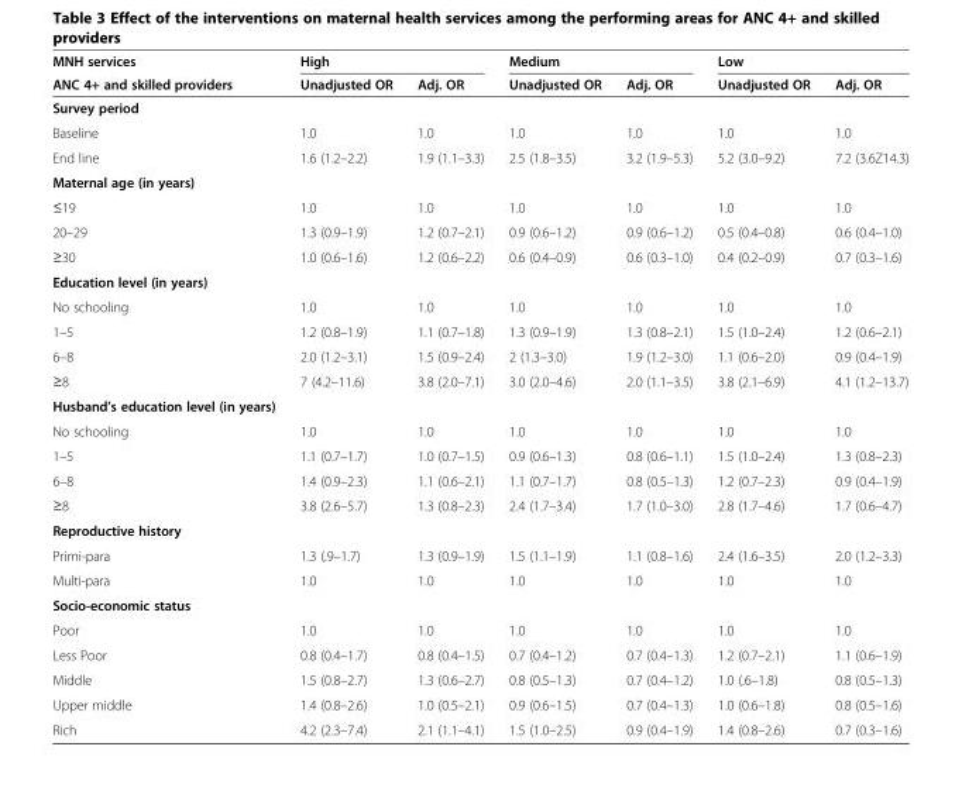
<table><thead><tr><td rowspan="2">MNH services ANC 4+ and skilled providers</td><td colspan="2">High</td><td colspan="2">Medium</td><td colspan="2">Low</td></tr><tr><td>Unadjusted OR</td><td>Adj. OR</td><td>Unadjusted OR</td><td>Adj. OR</td><td>Unadjusted OR</td><td>Adj. OR</td></tr></thead><tbody><tr><td colspan="7">Survey period</td></tr><tr><td>Baseline</td><td>1.0</td><td>1.0</td><td>1.0</td><td>1.0</td><td>1.0</td><td>1.0</td></tr><tr><td>End line</td><td>1.6 (1.2–2.2)</td><td>1.9 (1.1–3.3)</td><td>2.5 (1.8–3.5)</td><td>3.2 (1.9–5.3)</td><td>5.2 (3.0–9.2)</td><td>7.2 (3.6Z14.3)</td></tr><tr><td colspan="7">Maternal age (in years)</td></tr><tr><td>≤19</td><td>1.0</td><td>1.0</td><td>1.0</td><td>1.0</td><td>1.0</td><td>1.0</td></tr><tr><td>20–29</td><td>1.3 (0.9–1.9)</td><td>1.2 (0.7–2.1)</td><td>0.9 (0.6–1.2)</td><td>0.9 (0.6–1.2)</td><td>0.5 (0.4–0.8)</td><td>0.6 (0.4–1.0)</td></tr><tr><td>≥30</td><td>1.0 (0.6–1.6)</td><td>1.2 (0.6–2.2)</td><td>0.6 (0.4–0.9)</td><td>0.6 (0.3–1.0)</td><td>0.4 (0.2–0.9)</td><td>0.7 (0.3–1.6)</td></tr><tr><td colspan="7">Education level (in years)</td></tr><tr><td>No schooling</td><td>1.0</td><td>1.0</td><td>1.0</td><td>1.0</td><td>1.0</td><td>1.0</td></tr><tr><td>1–5</td><td>1.2 (0.8–1.9)</td><td>1.1 (0.7–1.8)</td><td>1.3 (0.9–1.9)</td><td>1.3 (0.8–2.1)</td><td>1.5 (1.0–2.4)</td><td>1.2 (0.6–2.1)</td></tr><tr><td>6–8</td><td>2.0 (1.2–3.1)</td><td>1.5 (0.9–2.4)</td><td>2 (1.3–3.0)</td><td>1.9 (1.2–3.0)</td><td>1.1 (0.6–2.0)</td><td>0.9 (0.4–1.9)</td></tr><tr><td>≥8</td><td>7 (4.2–11.6)</td><td>3.8 (2.0–7.1)</td><td>3.0 (2.0–4.6)</td><td>2.0 (1.1–3.5)</td><td>3.8 (2.1–6.9)</td><td>4.1 (1.2–13.7)</td></tr><tr><td colspan="7">Husband’s education level (in years)</td></tr><tr><td>No schooling</td><td>1.0</td><td>1.0</td><td>1.0</td><td>1.0</td><td>1.0</td><td>1.0</td></tr><tr><td>1–5</td><td>1.1 (0.7–1.7)</td><td>1.0 (0.7–1.5)</td><td>0.9 (0.6–1.3)</td><td>0.8 (0.6–1.1)</td><td>1.5 (1.0–2.4)</td><td>1.3 (0.8–2.3)</td></tr><tr><td>6–8</td><td>1.4 (0.9–2.3)</td><td>1.1 (0.6–2.1)</td><td>1.1 (0.7–1.7)</td><td>0.8 (0.5–1.3)</td><td>1.2 (0.7–2.3)</td><td>0.9 (0.4–1.9)</td></tr><tr><td>≥8</td><td>3.8 (2.6–5.7)</td><td>1.3 (0.8–2.3)</td><td>2.4 (1.7–3.4)</td><td>1.7 (1.0–3.0)</td><td>2.8 (1.7–4.6)</td><td>1.7 (0.6–4.7)</td></tr><tr><td colspan="7">Reproductive history</td></tr><tr><td>Primi-para</td><td>1.3 (.9–1.7)</td><td>1.3 (0.9–1.9)</td><td>1.5 (1.1–1.9)</td><td>1.1 (0.8–1.6)</td><td>2.4 (1.6–3.5)</td><td>2.0 (1.2–3.3)</td></tr><tr><td>Multi-para</td><td>1.0</td><td>1.0</td><td>1.0</td><td>1.0</td><td>1.0</td><td>1.0</td></tr><tr><td colspan="7">Socio-economic status</td></tr><tr><td>Poor</td><td>1.0</td><td>1.0</td><td>1.0</td><td>1.0</td><td>1.0</td><td>1.0</td></tr><tr><td>Less Poor</td><td>0.8 (0.4–1.7)</td><td>0.8 (0.4–1.5)</td><td>0.7 (0.4–1.2)</td><td>0.7 (0.4–1.3)</td><td>1.2 (0.7–2.1)</td><td>1.1 (0.6–1.9)</td></tr><tr><td>Middle</td><td>1.5 (0.8–2.7)</td><td>1.3 (0.6–2.7)</td><td>0.8 (0.5–1.3)</td><td>0.7 (0.4–1.2)</td><td>1.0 (.6–1.8)</td><td>0.8 (0.5–1.3)</td></tr><tr><td>Upper middle</td><td>1.4 (0.8–2.6)</td><td>1.0 (0.5–2.1)</td><td>0.9 (0.6–1.5)</td><td>0.7 (0.4–1.3)</td><td>1.0 (0.6–1.8)</td><td>0.8 (0.5–1.6)</td></tr><tr><td>Rich</td><td>4.2 (2.3–7.4)</td><td>2.1 (1.1–4.1)</td><td>1.5 (1.0–2.5)</td><td>0.9 (0.4–1.9)</td><td>1.4 (0.8–2.6)</td><td>0.7 (0.3–1.6)</td></tr></tbody></table>